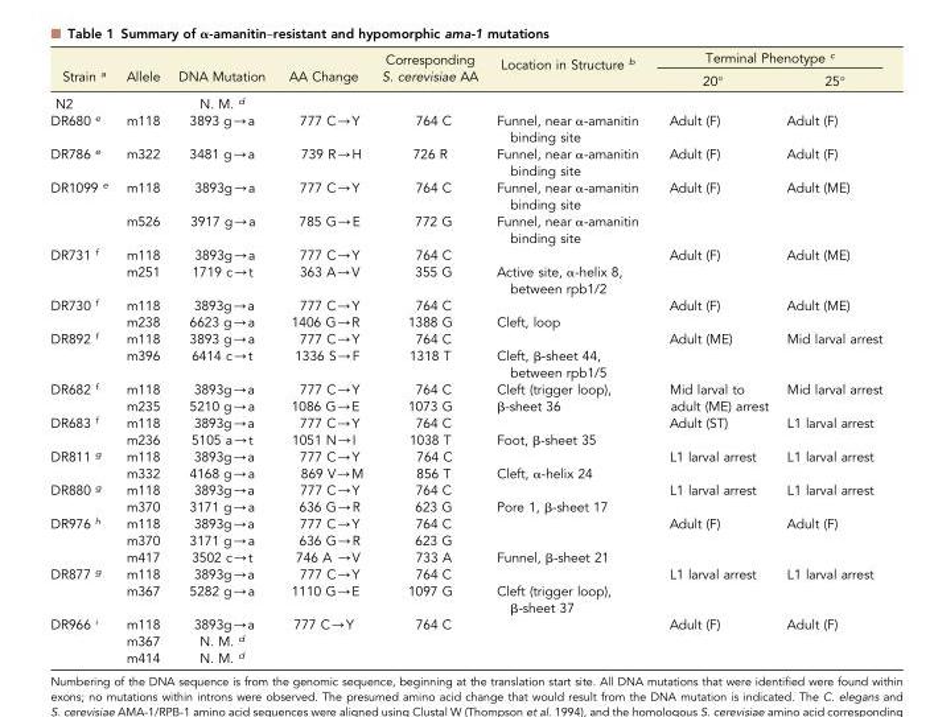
<table><thead><tr><td rowspan="2">Strain <sup>a</sup></td><td rowspan="2">Allele</td><td rowspan="2">DNA Mutation</td><td rowspan="2">AA Change</td><td rowspan="2">Corresponding S. cerevisiae AA</td><td rowspan="2">Location in Structure <sup>b</sup></td><td colspan="2">Terminal Phenotype <sup>c</sup></td></tr><tr><td>20°</td><td>25°</td></tr></thead><tbody><tr><td>N2</td><td></td><td>N. M. <sup>d</sup></td><td></td><td></td><td></td><td></td><td></td></tr><tr><td>DR680 <sup>e</sup></td><td>m118</td><td>3893 g→a</td><td>777 C→Y</td><td>764 C</td><td>Funnel, near α-amanitin binding site</td><td>Adult (F)</td><td>Adult (F)</td></tr><tr><td>DR786 <sup>e</sup></td><td>m322</td><td>3481 g→a</td><td>739 R→H</td><td>726 R</td><td>Funnel, near α-amanitin binding site</td><td>Adult (F)</td><td>Adult (F)</td></tr><tr><td rowspan="2">DR1099 <sup>e</sup></td><td>m118</td><td>3893g→a</td><td>777 C→Y</td><td>764 C</td><td>Funnel, near α-amanitin binding site</td><td rowspan="2">Adult (F)</td><td rowspan="2">Adult (ME)</td></tr><tr><td>m526</td><td>3917 g→a</td><td>785 G→E</td><td>772 G</td><td>Funnel, near α-amanitin binding site</td></tr><tr><td rowspan="2">DR731 <sup>f</sup></td><td>m118</td><td>3893g→a</td><td>777 C→Y</td><td>764 C</td><td></td><td rowspan="2">Adult (F)</td><td rowspan="2">Adult (ME)</td></tr><tr><td>m251</td><td>1719 c→t</td><td>363 A→V</td><td>355 G</td><td>Active site, α-helix 8, between rpb1/2</td></tr><tr><td rowspan="2">DR730 <sup>f</sup></td><td>m118</td><td>3893g→a</td><td>777 C→Y</td><td>764 C</td><td></td><td rowspan="2">Adult (F)</td><td rowspan="2">Adult (ME)</td></tr><tr><td>m238</td><td>6623 g→a</td><td>1406 G→R</td><td>1388 G</td><td>Cleft, loop</td></tr><tr><td rowspan="2">DR892 <sup>f</sup></td><td>m118</td><td>3893 g→a</td><td>777 C→Y</td><td>764 C</td><td></td><td rowspan="2">Adult (ME)</td><td rowspan="2">Mid larval arrest</td></tr><tr><td>m396</td><td>6414 c→t</td><td>1336 S→F</td><td>1318 T</td><td>Cleft, β-sheet 44, between rpb1/5</td></tr><tr><td rowspan="2">DR682 <sup>f</sup></td><td>m118</td><td>3893g→a</td><td>777 C→Y</td><td>764 C</td><td rowspan="2">Cleft (trigger loop), β-sheet 36</td><td rowspan="2">Mid larval to adult (ME) arrest</td><td rowspan="2">Mid larval arrest</td></tr><tr><td>m235</td><td>5210 g→a</td><td>1086 G→E</td><td>1073 G</td></tr><tr><td rowspan="2">DR683 <sup>f</sup></td><td>m118</td><td>3893g→a</td><td>777 C→Y</td><td>764 C</td><td></td><td rowspan="2">Adult (ST)</td><td rowspan="2">L1 larval arrest</td></tr><tr><td>m236</td><td>5105 a→t</td><td>1051 N→I</td><td>1038 T</td><td>Foot, β-sheet 35</td></tr><tr><td rowspan="2">DR811 <sup>g</sup></td><td>m118</td><td>3893g→a</td><td>777 C→Y</td><td>764 C</td><td></td><td rowspan="2">L1 larval arrest</td><td rowspan="2">L1 larval arrest</td></tr><tr><td>m332</td><td>4168 g→a</td><td>869 V→M</td><td>856 T</td><td>Cleft, α-helix 24</td></tr><tr><td rowspan="2">DR880 <sup>g</sup></td><td>m118</td><td>3893g→a</td><td>777 C→Y</td><td>764 C</td><td></td><td rowspan="2">L1 larval arrest</td><td rowspan="2">L1 larval arrest</td></tr><tr><td>m370</td><td>3171 g→a</td><td>636 G→R</td><td>623 G</td><td>Pore 1, β-sheet 17</td></tr><tr><td rowspan="3">DR976 <sup>h</sup></td><td>m118</td><td>3893g→a</td><td>777 C→Y</td><td>764 C</td><td></td><td rowspan="3">Adult (F)</td><td rowspan="3">Adult (F)</td></tr><tr><td>m370</td><td>3171 g→a</td><td>636 G→R</td><td>623 G</td><td></td></tr><tr><td>m417</td><td>3502 c→t</td><td>746 A →V</td><td>733 A</td><td>Funnel, β-sheet 21</td></tr><tr><td rowspan="2">DR877 <sup>g</sup></td><td>m118</td><td>3893g→a</td><td>777 C→Y</td><td>764 C</td><td></td><td rowspan="2">L1 larval arrest</td><td rowspan="2">L1 larval arrest</td></tr><tr><td>m367</td><td>5282 g→a</td><td>1110 G→E</td><td>1097 G</td><td>Cleft (trigger loop), β-sheet 37</td></tr><tr><td rowspan="3">DR966 <sup>i</sup></td><td>m118</td><td>3893g→a</td><td>777 C→Y</td><td>764 C</td><td></td><td rowspan="3">Adult (F)</td><td rowspan="3">Adult (F)</td></tr><tr><td>m367</td><td>N. M. <sup>d</sup></td><td></td><td></td><td></td></tr><tr><td>m414</td><td>N. M. <sup>d</sup></td><td></td><td></td><td></td></tr></tbody></table>